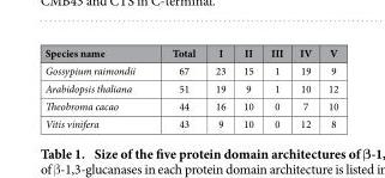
<table><thead><tr><td>Species name</td><td>Total</td><td>I</td><td>II</td><td>III</td><td>IV</td><td>V</td></tr></thead><tbody><tr><td>Gossypium raimondii</td><td>67</td><td>23</td><td>15</td><td>1</td><td>19</td><td>9</td></tr><tr><td>Arabidopsis thaliana</td><td>51</td><td>19</td><td>9</td><td>1</td><td>10</td><td>12</td></tr><tr><td>Theobroma cacao</td><td>44</td><td>16</td><td>10</td><td>0</td><td>7</td><td>10</td></tr><tr><td>Vitis vinifera</td><td>43</td><td>9</td><td>10</td><td>0</td><td>12</td><td>8</td></tr></tbody></table>